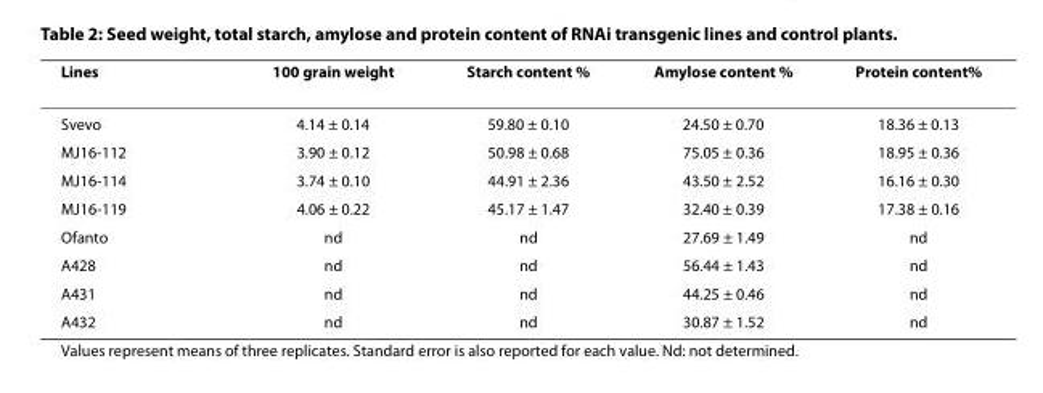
<table><thead><tr><td>Lines</td><td>100 grain weight</td><td>Starch content %</td><td>Amylose content %</td><td>Protein content%</td></tr></thead><tbody><tr><td>Svevo</td><td>4.14 ± 0.14</td><td>59.80 ± 0.10</td><td>24.50 ± 0.70</td><td>18.36 ± 0.13</td></tr><tr><td>MJ16-112</td><td>3.90 ± 0.12</td><td>50.98 ± 0.68</td><td>75.05 ± 0.36</td><td>18.95 ± 0.36</td></tr><tr><td>MJ16-114</td><td>3.74 ± 0.10</td><td>44.91 ± 2.36</td><td>43.50 ± 2.52</td><td>16.16 ± 0.30</td></tr><tr><td>MJ16-119</td><td>4.06 ± 0.22</td><td>45.17 ± 1.47</td><td>32.40 ± 0.39</td><td>17.38 ± 0.16</td></tr><tr><td>Ofanto</td><td>nd</td><td>nd</td><td>27.69 ± 1.49</td><td>nd</td></tr><tr><td>A428</td><td>nd</td><td>nd</td><td>56.44 ± 1.43</td><td>nd</td></tr><tr><td>A431</td><td>nd</td><td>nd</td><td>44.25 ± 0.46</td><td>nd</td></tr><tr><td>A432</td><td>nd</td><td>nd</td><td>30.87 ± 1.52</td><td>nd</td></tr></tbody></table>